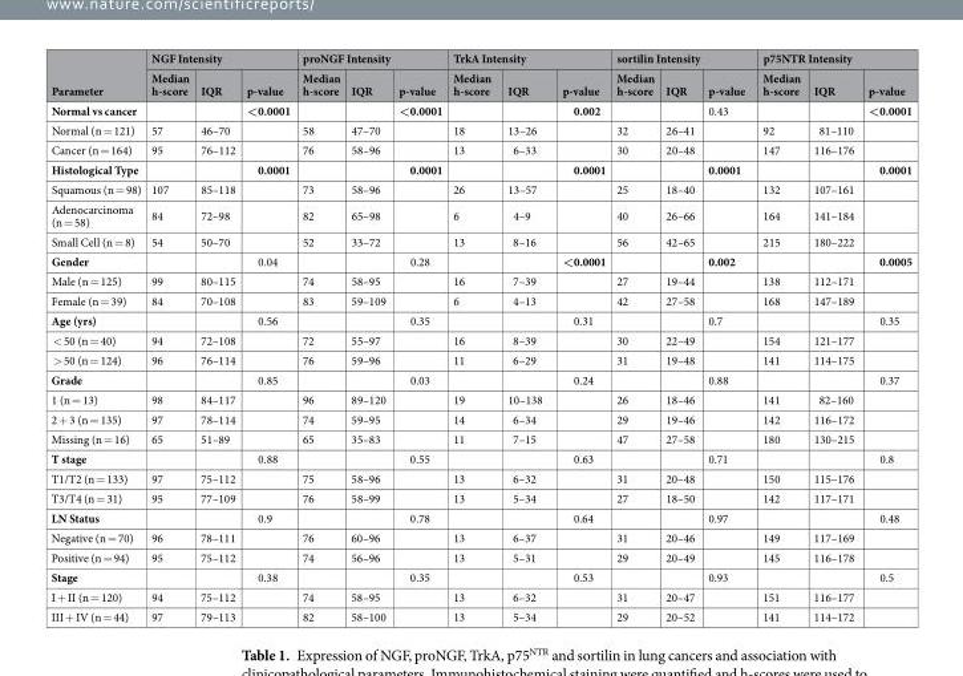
<table><thead><tr><td rowspan="2">Parameter</td><td colspan="3">NGF Intensity</td><td colspan="3">proNGF Intensity</td><td colspan="3">TrkA Intensity</td><td colspan="3">sortilin Intensity</td><td colspan="3">p75NTR Intensity</td></tr><tr><td>Median h-score</td><td>IQR</td><td>p-value</td><td>Median h-score</td><td>IQR</td><td>p-value</td><td>Median h-score</td><td>IQR</td><td>p-value</td><td>Median h-score</td><td>IQR</td><td>p-value</td><td>Median h-score</td><td>IQR</td><td>p-value</td></tr></thead><tbody><tr><td>Normal vs cancer</td><td></td><td></td><td>&lt;0.0001</td><td></td><td></td><td>&lt;0.0001</td><td></td><td></td><td>0.002</td><td></td><td></td><td>0.43</td><td></td><td></td><td>&lt;0.0001</td></tr><tr><td>Normal (n = 121)</td><td>57</td><td>46–70</td><td></td><td>58</td><td>47–70</td><td></td><td>18</td><td>13–26</td><td></td><td>32</td><td>26–41</td><td></td><td>92</td><td>81–110</td><td></td></tr><tr><td>Cancer (n = 164)</td><td>95</td><td>76–112</td><td></td><td>76</td><td>58–96</td><td></td><td>13</td><td>6–33</td><td></td><td>30</td><td>20–48</td><td></td><td>147</td><td>116–176</td><td></td></tr><tr><td>Histological Type</td><td></td><td></td><td>0.0001</td><td></td><td></td><td>0.0001</td><td></td><td></td><td>0.0001</td><td></td><td></td><td>0.0001</td><td></td><td></td><td>0.0001</td></tr><tr><td>Squamous (n = 98)</td><td>107</td><td>85–118</td><td></td><td>73</td><td>58–96</td><td></td><td>26</td><td>13–57</td><td></td><td>25</td><td>18–40</td><td></td><td>132</td><td>107–161</td><td></td></tr><tr><td>Adenocarcinoma (n = 58)</td><td>84</td><td>72–98</td><td></td><td>82</td><td>65–98</td><td></td><td>6</td><td>4–9</td><td></td><td>40</td><td>26–66</td><td></td><td>164</td><td>141–184</td><td></td></tr><tr><td>Small Cell (n = 8)</td><td>54</td><td>50–70</td><td></td><td>52</td><td>33–72</td><td></td><td>13</td><td>8–16</td><td></td><td>56</td><td>42–65</td><td></td><td>215</td><td>180–222</td><td></td></tr><tr><td>Gender</td><td></td><td></td><td>0.04</td><td></td><td></td><td>0.28</td><td></td><td></td><td>&lt;0.0001</td><td></td><td></td><td>0.002</td><td></td><td></td><td>0.0005</td></tr><tr><td>Male (n = 125)</td><td>99</td><td>80–115</td><td></td><td>74</td><td>58–95</td><td></td><td>16</td><td>7–39</td><td></td><td>27</td><td>19–44</td><td></td><td>138</td><td>112–171</td><td></td></tr><tr><td>Female (n = 39)</td><td>84</td><td>70–108</td><td></td><td>83</td><td>59–109</td><td></td><td>6</td><td>4–13</td><td></td><td>42</td><td>27–58</td><td></td><td>168</td><td>147–189</td><td></td></tr><tr><td>Age (yrs)</td><td></td><td></td><td>0.56</td><td></td><td></td><td>0.35</td><td></td><td></td><td>0.31</td><td></td><td></td><td>0.7</td><td></td><td></td><td>0.35</td></tr><tr><td>&lt; 50 (n = 40)</td><td>94</td><td>72–108</td><td></td><td>72</td><td>55–97</td><td></td><td>16</td><td>8–39</td><td></td><td>30</td><td>22–49</td><td></td><td>154</td><td>121–177</td><td></td></tr><tr><td>&gt; 50 (n = 124)</td><td>96</td><td>76–114</td><td></td><td>76</td><td>59–96</td><td></td><td>11</td><td>6–29</td><td></td><td>31</td><td>19–48</td><td></td><td>141</td><td>114–175</td><td></td></tr><tr><td>Grade</td><td></td><td></td><td>0.85</td><td></td><td></td><td>0.03</td><td></td><td></td><td>0.24</td><td></td><td></td><td>0.88</td><td></td><td></td><td>0.37</td></tr><tr><td>1 (n = 13)</td><td>98</td><td>84–117</td><td></td><td>96</td><td>89–120</td><td></td><td>19</td><td>10–138</td><td></td><td>26</td><td>18–46</td><td></td><td>141</td><td>82–160</td><td></td></tr><tr><td>2 + 3 (n = 135)</td><td>97</td><td>78–114</td><td></td><td>74</td><td>59–95</td><td></td><td>14</td><td>6–34</td><td></td><td>29</td><td>19–46</td><td></td><td>142</td><td>116–172</td><td></td></tr><tr><td>Missing (n = 16)</td><td>65</td><td>51–89</td><td></td><td>65</td><td>35–83</td><td></td><td>11</td><td>7–15</td><td></td><td>47</td><td>27–58</td><td></td><td>180</td><td>130–215</td><td></td></tr><tr><td>T stage</td><td></td><td></td><td>0.88</td><td></td><td></td><td>0.55</td><td></td><td></td><td>0.63</td><td></td><td></td><td>0.71</td><td></td><td></td><td>0.8</td></tr><tr><td>T1/T2 (n = 133)</td><td>97</td><td>75–112</td><td></td><td>75</td><td>58–96</td><td></td><td>13</td><td>6–32</td><td></td><td>31</td><td>20–48</td><td></td><td>150</td><td>115–176</td><td></td></tr><tr><td>T3/T4 (n = 31)</td><td>95</td><td>77–109</td><td></td><td>76</td><td>58–99</td><td></td><td>13</td><td>5–34</td><td></td><td>27</td><td>18–50</td><td></td><td>142</td><td>117–171</td><td></td></tr><tr><td>LN Status</td><td></td><td></td><td>0.9</td><td></td><td></td><td>0.78</td><td></td><td></td><td>0.64</td><td></td><td></td><td>0.97</td><td></td><td></td><td>0.48</td></tr><tr><td>Negative (n = 70)</td><td>96</td><td>78–111</td><td></td><td>76</td><td>60–96</td><td></td><td>13</td><td>6–37</td><td></td><td>31</td><td>20–46</td><td></td><td>149</td><td>117–169</td><td></td></tr><tr><td>Positive (n = 94)</td><td>95</td><td>75–112</td><td></td><td>74</td><td>56–96</td><td></td><td>13</td><td>5–31</td><td></td><td>29</td><td>20–49</td><td></td><td>145</td><td>116–178</td><td></td></tr><tr><td>Stage</td><td></td><td></td><td>0.38</td><td></td><td></td><td>0.35</td><td></td><td></td><td>0.53</td><td></td><td></td><td>0.93</td><td></td><td></td><td>0.5</td></tr><tr><td>I + II (n = 120)</td><td>94</td><td>75–112</td><td></td><td>74</td><td>58–95</td><td></td><td>13</td><td>6–32</td><td></td><td>31</td><td>20–47</td><td></td><td>151</td><td>116–177</td><td></td></tr><tr><td>III + IV (n = 44)</td><td>97</td><td>79–113</td><td></td><td>82</td><td>58–100</td><td></td><td>13</td><td>5–34</td><td></td><td>29</td><td>20–52</td><td></td><td>141</td><td>114–172</td><td></td></tr></tbody></table>